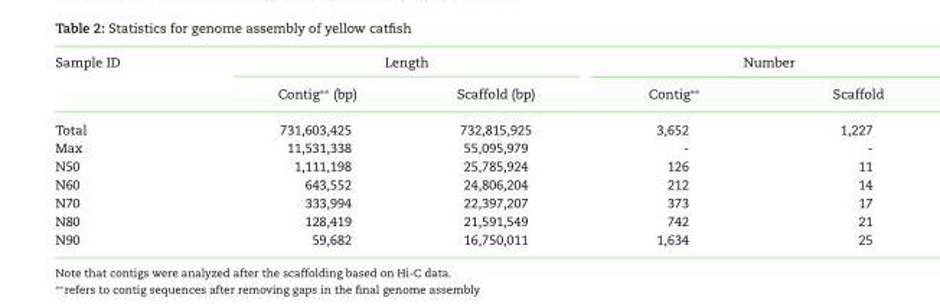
<table><thead><tr><td rowspan="2">Sample ID</td><td colspan="2">Length</td><td colspan="2">Number</td></tr><tr><td>Contig∗∗ (bp)</td><td>Scaffold (bp)</td><td>Contig∗∗</td><td>Scaffold</td></tr></thead><tbody><tr><td>Total</td><td>731,603,425</td><td>732,815,925</td><td>3,652</td><td>1,227</td></tr><tr><td>Max</td><td>11,531,338</td><td>55,095,979</td><td>-</td><td>-</td></tr><tr><td>N50</td><td>1,111,198</td><td>25,785,924</td><td>126</td><td>11</td></tr><tr><td>N60</td><td>643,552</td><td>24,806,204</td><td>212</td><td>14</td></tr><tr><td>N70</td><td>333,994</td><td>22,397,207</td><td>373</td><td>17</td></tr><tr><td>N80</td><td>128,419</td><td>21,591,549</td><td>742</td><td>21</td></tr><tr><td>N90</td><td>59,682</td><td>16,750,011</td><td>1,634</td><td>25</td></tr></tbody></table>